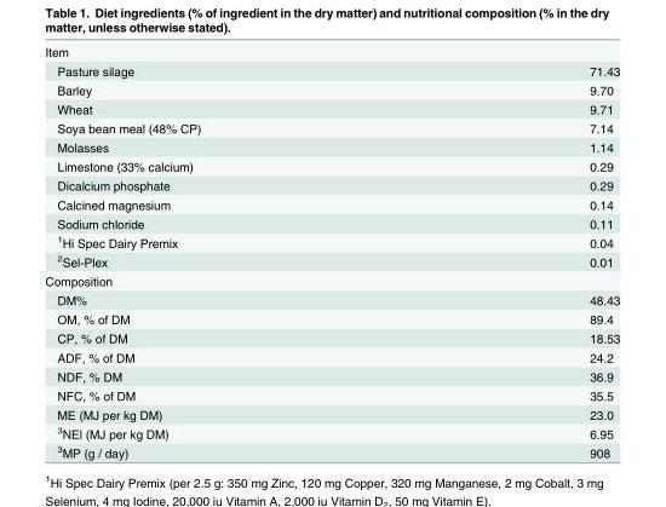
<table><tbody><tr><td colspan="2">Item</td></tr><tr><td>Pasture silage</td><td>71.43</td></tr><tr><td>Barley</td><td>9.70</td></tr><tr><td>Wheat</td><td>9.71</td></tr><tr><td>Soya bean meal (48% CP)</td><td>7.14</td></tr><tr><td>Molasses</td><td>1.14</td></tr><tr><td>Limestone (33% calcium)</td><td>0.29</td></tr><tr><td>Dicalcium phosphate</td><td>0.29</td></tr><tr><td>Calcined magnesium</td><td>0.14</td></tr><tr><td>Sodium chloride</td><td>0.11</td></tr><tr><td><sup>1</sup>Hi Spec Dairy Premix</td><td>0.04</td></tr><tr><td><sup>2</sup>Sel-Plex</td><td>0.01</td></tr><tr><td colspan="2">Composition</td></tr><tr><td>DM%</td><td>48.43</td></tr><tr><td>OM, % of DM</td><td>89.4</td></tr><tr><td>CP, % of DM</td><td>18.53</td></tr><tr><td>ADF, % of DM</td><td>24.2</td></tr><tr><td>NDF, % DM</td><td>36.9</td></tr><tr><td>NFC, % of DM</td><td>35.5</td></tr><tr><td>ME (MJ per kg DM)</td><td>23.0</td></tr><tr><td><sup>3</sup>NEl (MJ per kg DM)</td><td>6.95</td></tr><tr><td><sup>3</sup>MP (g / day)</td><td>908</td></tr></tbody></table>